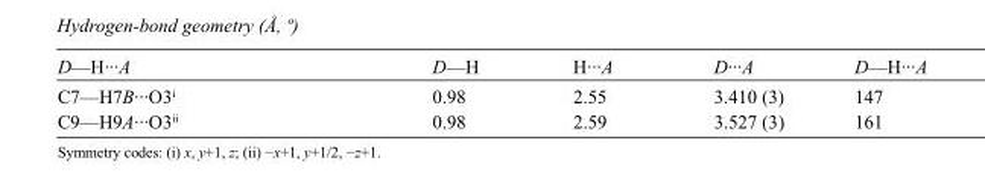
<table><tbody><tr><td>D—H···A</td><td>D—H</td><td>H···A</td><td>D···A</td><td>D—H···A</td></tr><tr><td>C7—H7B···O3<sup>i</sup></td><td>0.98</td><td>2.55</td><td>3.410 (3)</td><td>147</td></tr><tr><td>C9—H9A···O3<sup>ii</sup></td><td>0.98</td><td>2.59</td><td>3.527 (3)</td><td>161</td></tr></tbody></table>